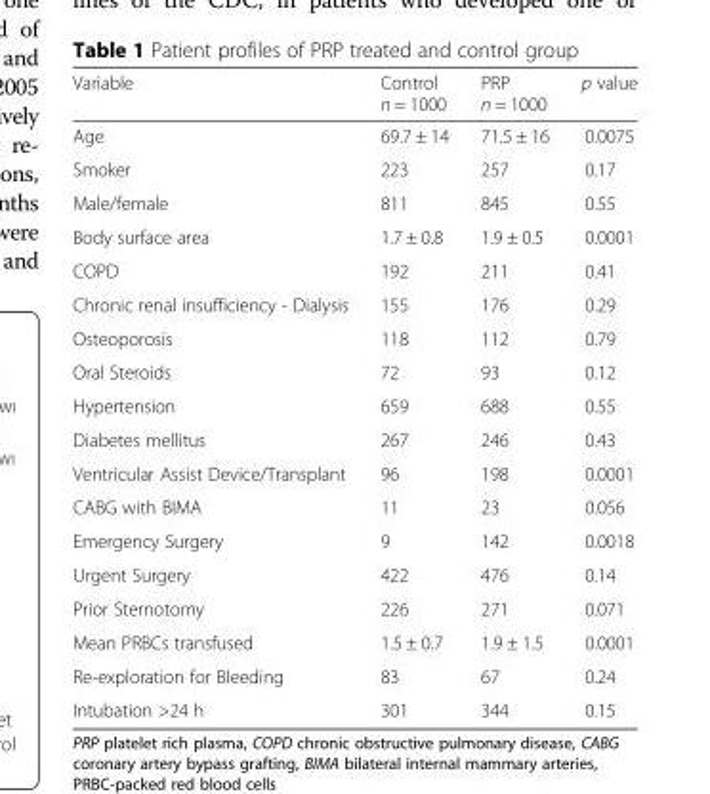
<table><thead><tr><td>Variable</td><td>Control n = 1000</td><td>PRP n = 1000</td><td>p value</td></tr></thead><tbody><tr><td>Age</td><td>69.7 ± 14</td><td>71.5 ± 16</td><td>0.0075</td></tr><tr><td>Smoker</td><td>223</td><td>257</td><td>0.17</td></tr><tr><td>Male/female</td><td>811</td><td>845</td><td>0.55</td></tr><tr><td>Body surface area</td><td>1.7 ± 0.8</td><td>1.9 ± 0.5</td><td>0.0001</td></tr><tr><td>COPD</td><td>192</td><td>211</td><td>0.41</td></tr><tr><td>Chronic renal insufficiency - Dialysis</td><td>155</td><td>176</td><td>0.29</td></tr><tr><td>Osteoporosis</td><td>118</td><td>112</td><td>0.79</td></tr><tr><td>Oral Steroids</td><td>72</td><td>93</td><td>0.12</td></tr><tr><td>Hypertension</td><td>659</td><td>688</td><td>0.55</td></tr><tr><td>Diabetes mellitus</td><td>267</td><td>246</td><td>0.43</td></tr><tr><td>Ventricular Assist Device/Transplant</td><td>96</td><td>198</td><td>0.0001</td></tr><tr><td>CABG with BIMA</td><td>11</td><td>23</td><td>0.056</td></tr><tr><td>Emergency Surgery</td><td>9</td><td>142</td><td>0.0018</td></tr><tr><td>Urgent Surgery</td><td>422</td><td>476</td><td>0.14</td></tr><tr><td>Prior Sternotomy</td><td>226</td><td>271</td><td>0.071</td></tr><tr><td>Mean PRBCs transfused</td><td>1.5 ± 0.7</td><td>1.9 ± 1.5</td><td>0.0001</td></tr><tr><td>Re-exploration for Bleeding</td><td>83</td><td>67</td><td>0.24</td></tr><tr><td>Intubation &gt;24 h</td><td>301</td><td>344</td><td>0.15</td></tr></tbody></table>